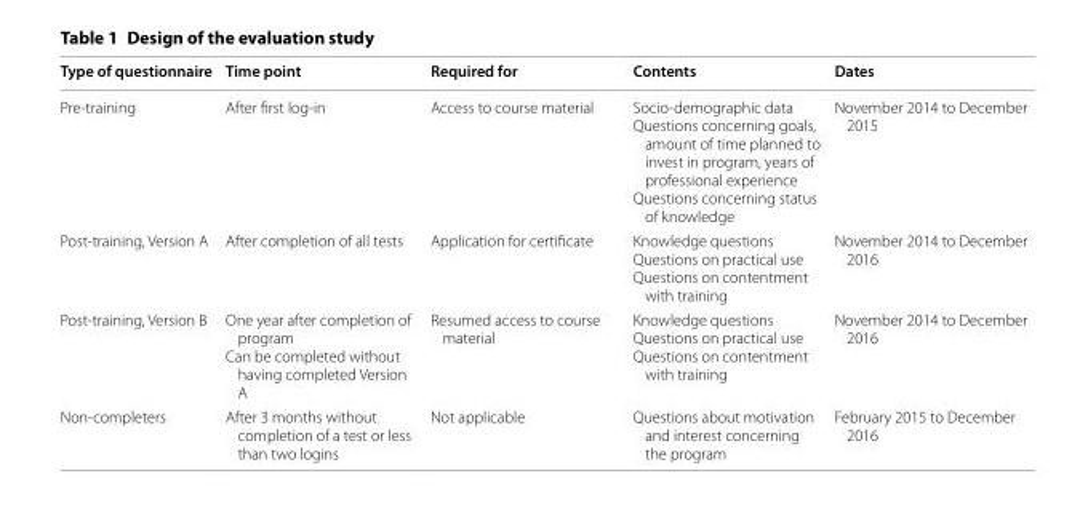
<table><thead><tr><td>Type of questionnaire</td><td>Time point</td><td>Required for</td><td>Contents</td><td>Dates</td></tr></thead><tbody><tr><td>Pre-training</td><td>After first log-in</td><td>Access to course material</td><td>Socio-demographic data Questions concerning goals, amount of time planned to invest in program, years of professional experience Questions concerning status of knowledge</td><td>November 2014 to December 2015</td></tr><tr><td>Post-training, Version A</td><td>After completion of all tests</td><td>Application for certificate</td><td>Knowledge questions Questions on practical use Questions on contentment with training</td><td>November 2014 to December 2016</td></tr><tr><td>Post-training, Version B</td><td>One year after completion of program Can be completed without having completed Version A</td><td>Resumed access to course material</td><td>Knowledge questions Questions on practical use Questions on contentment with training</td><td>November 2014 to December 2016</td></tr><tr><td>Non-completers</td><td>After 3 months without completion of a test or less than two logins</td><td>Not applicable</td><td>Questions about motivation and interest concerning the program</td><td>February 2015 to December 2016</td></tr></tbody></table>